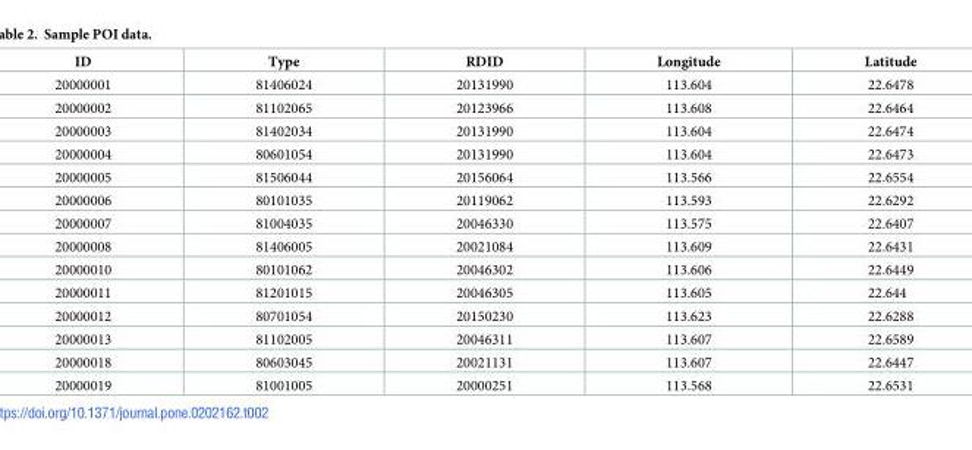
<table><thead><tr><td>ID</td><td>Type</td><td>RDID</td><td>Longitude</td><td>Latitude</td></tr></thead><tbody><tr><td>20000001</td><td>81406024</td><td>20131990</td><td>113.604</td><td>22.6478</td></tr><tr><td>20000002</td><td>81102065</td><td>20123966</td><td>113.608</td><td>22.6464</td></tr><tr><td>20000003</td><td>81402034</td><td>20131990</td><td>113.604</td><td>22.6474</td></tr><tr><td>20000004</td><td>80601054</td><td>20131990</td><td>113.604</td><td>22.6473</td></tr><tr><td>20000005</td><td>81506044</td><td>20156064</td><td>113.566</td><td>22.6554</td></tr><tr><td>20000006</td><td>80101035</td><td>20119062</td><td>113.593</td><td>22.6292</td></tr><tr><td>20000007</td><td>81004035</td><td>20046330</td><td>113.575</td><td>22.6407</td></tr><tr><td>20000008</td><td>81406005</td><td>20021084</td><td>113.609</td><td>22.6431</td></tr><tr><td>20000010</td><td>80101062</td><td>20046302</td><td>113.606</td><td>22.6449</td></tr><tr><td>20000011</td><td>81201015</td><td>20046305</td><td>113.605</td><td>22.644</td></tr><tr><td>20000012</td><td>80701054</td><td>20150230</td><td>113.623</td><td>22.6288</td></tr><tr><td>20000013</td><td>81102005</td><td>20046311</td><td>113.607</td><td>22.6589</td></tr><tr><td>20000018</td><td>80603045</td><td>20021131</td><td>113.607</td><td>22.6447</td></tr><tr><td>20000019</td><td>81001005</td><td>20000251</td><td>113.568</td><td>22.6531</td></tr></tbody></table>